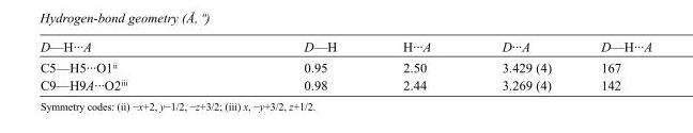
<table><tbody><tr><td>D—H···A</td><td>D—H</td><td>H···A</td><td>D···A</td><td>D—H···A</td></tr><tr><td>C5—H5···O1<sup>ii</sup></td><td>0.95</td><td>2.50</td><td>3.429 (4)</td><td>167</td></tr><tr><td>C9—H9A···O2<sup>iii</sup></td><td>0.98</td><td>2.44</td><td>3.269 (4)</td><td>142</td></tr></tbody></table>